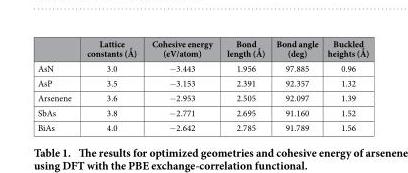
<table><thead><tr><td></td><td>Lattice constants (Ǻ)</td><td>Cohesive energy (eV/atom)</td><td>Bond length (Ǻ)</td><td>Bond angle (deg)</td><td>Buckled heights (Ǻ)</td></tr></thead><tbody><tr><td>AsN</td><td>3.0</td><td>− 3.443</td><td>1.956</td><td>97.885</td><td>0.96</td></tr><tr><td>AsP</td><td>3.5</td><td>− 3.153</td><td>2.391</td><td>92.357</td><td>1.32</td></tr><tr><td>Arsenene</td><td>3.6</td><td>− 2.953</td><td>2.505</td><td>92.097</td><td>1.39</td></tr><tr><td>SbAs</td><td>3.8</td><td>− 2.771</td><td>2.695</td><td>91.160</td><td>1.52</td></tr><tr><td>BiAs</td><td>4.0</td><td>− 2.642</td><td>2.785</td><td>91.789</td><td>1.56</td></tr></tbody></table>